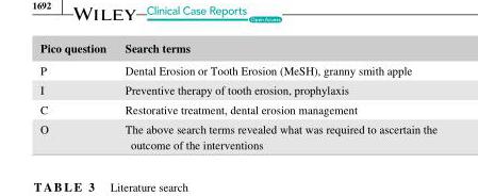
<table><thead><tr><td>Pico question</td><td>Search terms</td></tr></thead><tbody><tr><td>P</td><td>Dental Erosion or Tooth Erosion (MeSH), granny smith apple</td></tr><tr><td>I</td><td>Preventive therapy of tooth erosion, prophylaxis</td></tr><tr><td>C</td><td>Restorative treatment, dental erosion management</td></tr><tr><td>O</td><td>The above search terms revealed what was required to ascertain the outcome of the interventions</td></tr></tbody></table>